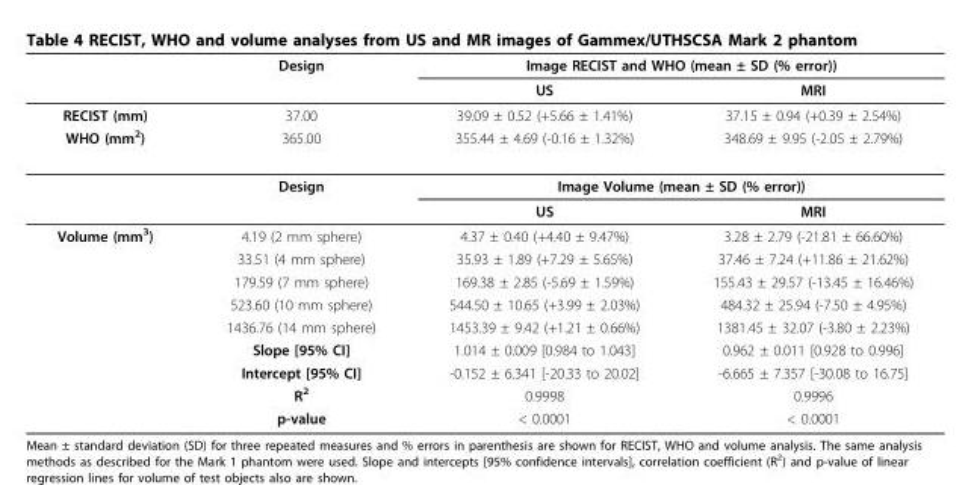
<table><thead><tr><td rowspan="2"></td><td rowspan="2">Design</td><td colspan="2">Image RECIST and WHO (mean ± SD (% error))</td></tr><tr><td>US</td><td>MRI</td></tr></thead><tbody><tr><td>RECIST (mm)</td><td>37.00</td><td>39.09 ± 0.52 (+5.66 ± 1.41%)</td><td>37.15 ± 0.94 (+0.39 ± 2.54%)</td></tr><tr><td rowspan="3">WHO (mm<sup>2</sup>)</td><td>365.00</td><td>355.44 ± 4.69 (-0.16 ± 1.32%)</td><td>348.69 ± 9.95 (-2.05 ± 2.79%)</td></tr><tr><td>Design</td><td colspan="2">Image Volume (mean ± SD (% error))</td></tr><tr><td></td><td>US</td><td>MRI</td></tr><tr><td rowspan="9">Volume (mm<sup>3</sup>)</td><td>4.19 (2 mm sphere)</td><td>4.37 ± 0.40 (+4.40 ± 9.47%)</td><td>3.28 ± 2.79 (-21.81 ± 66.60%)</td></tr><tr><td>33.51 (4 mm sphere)</td><td>35.93 ± 1.89 (+7.29 ± 5.65%)</td><td>37.46 ± 7.24 (+11.86 ± 21.62%)</td></tr><tr><td>179.59 (7 mm sphere)</td><td>169.38 ± 2.85 (-5.69 ± 1.59%)</td><td>155.43 ± 29.57 (-13.45 ± 16.46%)</td></tr><tr><td>523.60 (10 mm sphere)</td><td>544.50 ± 10.65 (+3.99 ± 2.03%)</td><td>484.32 ± 25.94 (-7.50 ± 4.95%)</td></tr><tr><td>1436.76 (14 mm sphere)</td><td>1453.39 ± 9.42 (+1.21 ± 0.66%)</td><td>1381.45 ± 32.07 (-3.80 ± 2.23%)</td></tr><tr><td>Slope [95% CI]</td><td>1.014 ± 0.009 [0.984 to 1.043]</td><td>0.962 ± 0.011 [0.928 to 0.996]</td></tr><tr><td>Intercept [95% CI]</td><td>-0.152 ± 6.341 [-20.33 to 20.02]</td><td>-6.665 ± 7.357 [-30.08 to 16.75]</td></tr><tr><td>R<sup>2</sup></td><td>0.9998</td><td>0.9996</td></tr><tr><td>p-value</td><td>&lt; 0.0001</td><td>&lt; 0.0001</td></tr></tbody></table>